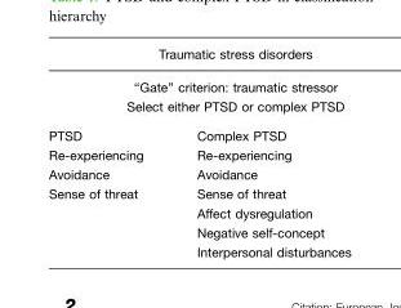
<table><thead><tr><td rowspan="3" colspan="2">Traumatic stress disorders ‘‘Gate’’ criterion: traumatic stressor Select either PTSD or complex PTSD</td></tr><tr></tr><tr></tr><tr><td>PTSD</td><td>Complex PTSD</td></tr></thead><tbody><tr><td>Re-experiencing</td><td>Re-experiencing</td></tr><tr><td>Avoidance</td><td>Avoidance</td></tr><tr><td rowspan="4">Sense of threat</td><td>Sense of threat</td></tr><tr><td>Affect dysregulation</td></tr><tr><td>Negative self-concept</td></tr><tr><td>Interpersonal disturbances</td></tr></tbody></table>